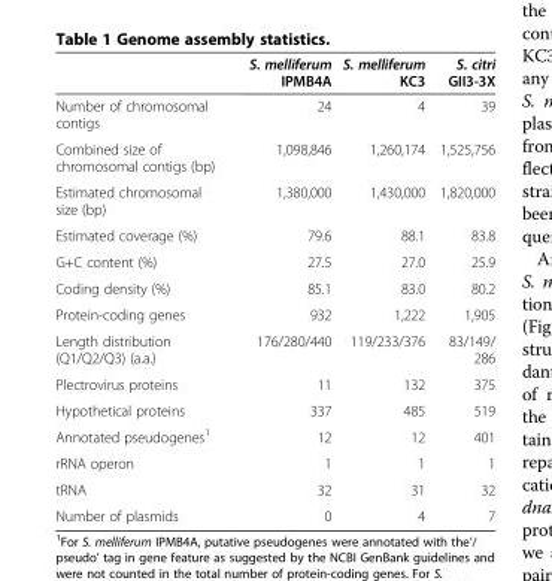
<table><thead><tr><td></td><td>S. melliferum IPMB4A</td><td>S. melliferum KC3</td><td>S. citri GII3-3X</td></tr></thead><tbody><tr><td>Number of chromosomal contigs</td><td>24</td><td>4</td><td>39</td></tr><tr><td>Combined size of chromosomal contigs (bp)</td><td>1,098,846</td><td>1,260,174</td><td>1,525,756</td></tr><tr><td>Estimated chromosomal size (bp)</td><td>1,380,000</td><td>1,430,000</td><td>1,820,000</td></tr><tr><td>Estimated coverage (%)</td><td>79.6</td><td>88.1</td><td>83.8</td></tr><tr><td>G+C content (%)</td><td>27.5</td><td>27.0</td><td>25.9</td></tr><tr><td>Coding density (%)</td><td>85.1</td><td>83.0</td><td>80.2</td></tr><tr><td>Protein-coding genes</td><td>932</td><td>1,222</td><td>1,905</td></tr><tr><td>Length distribution (Q1/Q2/Q3) (a.a.)</td><td>176/280/440</td><td>119/233/376</td><td>83/149/ 286</td></tr><tr><td>Plectrovirus proteins</td><td>11</td><td>132</td><td>375</td></tr><tr><td>Hypothetical proteins</td><td>337</td><td>485</td><td>519</td></tr><tr><td>Annotated pseudogenes<sup>1</sup></td><td>12</td><td>12</td><td>401</td></tr><tr><td>rRNA operon</td><td>1</td><td>1</td><td>1</td></tr><tr><td>tRNA</td><td>32</td><td>31</td><td>32</td></tr><tr><td>Number of plasmids</td><td>0</td><td>4</td><td>7</td></tr></tbody></table>